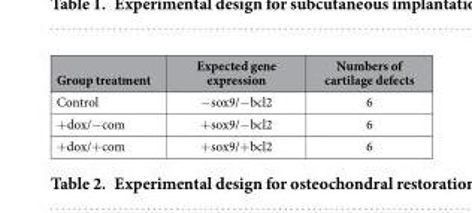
<table><thead><tr><td>Group treatment</td><td>Expected gene expression</td><td>Numbers of cartilage defects</td></tr></thead><tbody><tr><td>Control</td><td>− sox9/− bcl2</td><td>6</td></tr><tr><td>+ dox/− com</td><td>+ sox9/− bcl2</td><td>6</td></tr><tr><td>+ dox/+ com</td><td>+ sox9/+ bcl2</td><td>6</td></tr></tbody></table>